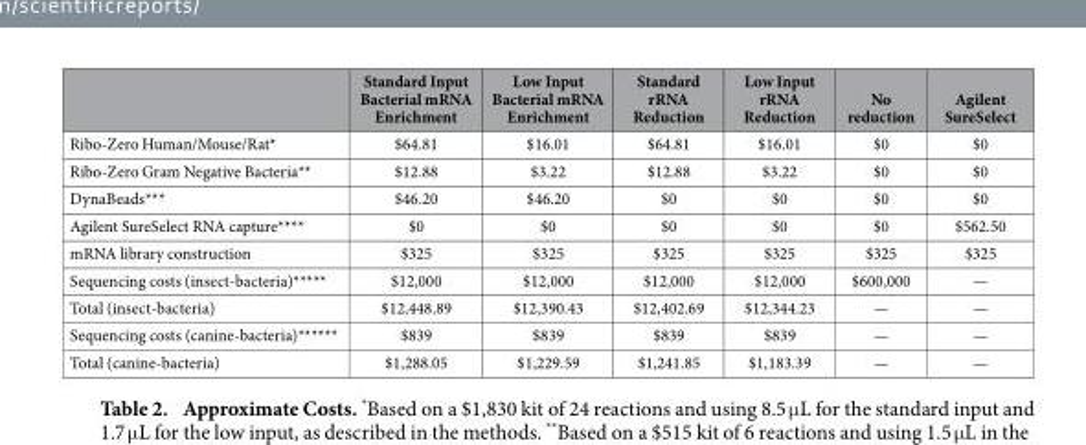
<table><thead><tr><td></td><td>Standard Input Bacterial mRNA Enrichment</td><td>Low Input Bacterial mRNA Enrichment</td><td>Standard rRNA Reduction</td><td>Low Input rRNA Reduction</td><td>No reduction</td><td>Agilent SureSelect</td></tr></thead><tbody><tr><td>Ribo-Zero Human/Mouse/Rat*</td><td>$64.81</td><td>$16.01</td><td>$64.81</td><td>$16.01</td><td>$0</td><td>$0</td></tr><tr><td>Ribo-Zero Gram Negative Bacteria**</td><td>$12.88</td><td>$3.22</td><td>$12.88</td><td>$3.22</td><td>$0</td><td>$0</td></tr><tr><td>DynaBeads***</td><td>$46.20</td><td>$46.20</td><td>$0</td><td>$0</td><td>$0</td><td>$0</td></tr><tr><td>Agilent SureSelect RNA capture****</td><td>$0</td><td>$0</td><td>$0</td><td>$0</td><td>$0</td><td>$562.50</td></tr><tr><td>mRNA library construction</td><td>$325</td><td>$325</td><td>$325</td><td>$325</td><td>$325</td><td>$325</td></tr><tr><td>Sequencing costs (insect-bacteria)*****</td><td>$12,000</td><td>$12,000</td><td>$12,000</td><td>$12,000</td><td>$600,000</td><td>—</td></tr><tr><td>Total (insect-bacteria)</td><td>$12,448.89</td><td>$12,390.43</td><td>$12,402.69</td><td>$12,344.23</td><td>—</td><td>—</td></tr><tr><td>Sequencing costs (canine-bacteria)******</td><td>$839</td><td>$839</td><td>$839</td><td>$839</td><td>—</td><td>—</td></tr><tr><td>Total (canine-bacteria)</td><td>$1,288.05</td><td>$1,229.59</td><td>$1,241.85</td><td>$1,183.39</td><td>—</td><td>—</td></tr></tbody></table>